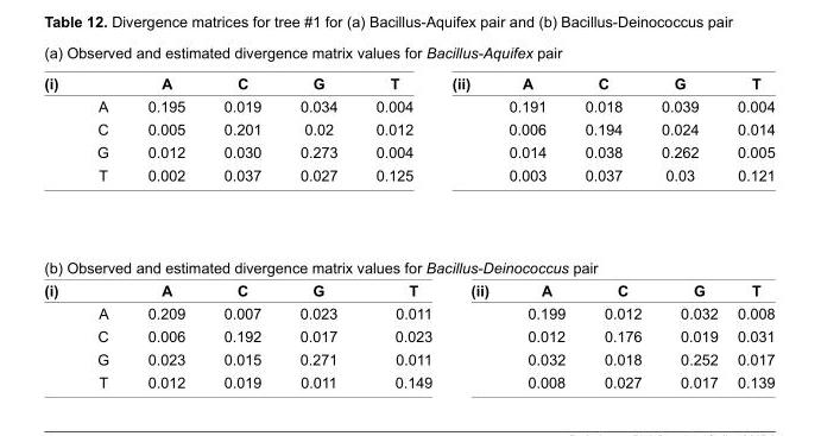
<table><tbody><tr><td colspan="11">(a) Observed and estimated divergence matrix values for Bacillus-Aquifex pair</td></tr><tr><td rowspan="5">(i)</td><td></td><td>A</td><td>C</td><td>G</td><td>T</td><td>(ii)</td><td>A</td><td>C</td><td>G</td><td>T</td></tr><tr><td>A</td><td>0.195</td><td>0.019</td><td>0.034</td><td>0.004</td><td></td><td>0.191</td><td>0.018</td><td>0.039</td><td>0.004</td></tr><tr><td>C</td><td>0.005</td><td>0.201</td><td>0.02</td><td>0.012</td><td></td><td>0.006</td><td>0.194</td><td>0.024</td><td>0.014</td></tr><tr><td>G</td><td>0.012</td><td>0.030</td><td>0.273</td><td>0.004</td><td></td><td>0.014</td><td>0.038</td><td>0.262</td><td>0.005</td></tr><tr><td>T</td><td>0.002</td><td>0.037</td><td>0.027</td><td>0.125</td><td></td><td>0.003</td><td>0.037</td><td>0.03</td><td>0.121</td></tr><tr><td colspan="11">(b) Observed and estimated divergence matrix values for Bacillus-Deinococcus pair</td></tr><tr><td rowspan="5">(i)</td><td></td><td>A</td><td>C</td><td>G</td><td>T</td><td>(ii)</td><td>A</td><td>C</td><td>G</td><td>T</td></tr><tr><td>A</td><td>0.209</td><td>0.007</td><td>0.023</td><td>0.011</td><td></td><td>0.199</td><td>0.012</td><td>0.032</td><td>0.008</td></tr><tr><td>C</td><td>0.006</td><td>0.192</td><td>0.017</td><td>0.023</td><td></td><td>0.012</td><td>0.176</td><td>0.019</td><td>0.031</td></tr><tr><td>G</td><td>0.023</td><td>0.015</td><td>0.271</td><td>0.011</td><td></td><td>0.032</td><td>0.018</td><td>0.252</td><td>0.017</td></tr><tr><td>T</td><td>0.012</td><td>0.019</td><td>0.011</td><td>0.149</td><td></td><td>0.008</td><td>0.027</td><td>0.017</td><td>0.139</td></tr></tbody></table>